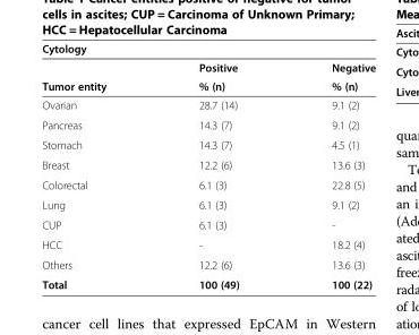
<table><thead><tr><td colspan="3">Cytology</td></tr><tr><td rowspan="2">Tumor entity</td><td rowspan="2">Positive % (n)</td><td rowspan="2">Negative % (n)</td></tr><tr></tr></thead><tbody><tr><td>Ovarian</td><td>28.7 (14)</td><td>9.1 (2)</td></tr><tr><td>Pancreas</td><td>14.3 (7)</td><td>9.1 (2)</td></tr><tr><td>Stomach</td><td>14.3 (7)</td><td>4.5 (1)</td></tr><tr><td>Breast</td><td>12.2 (6)</td><td>13.6 (3)</td></tr><tr><td>Colorectal</td><td>6.1 (3)</td><td>22.8 (5)</td></tr><tr><td>Lung</td><td>6.1 (3)</td><td>9.1 (2)</td></tr><tr><td>CUP</td><td>6.1 (3)</td><td>-</td></tr><tr><td>HCC</td><td>-</td><td>18.2 (4)</td></tr><tr><td>Others</td><td>12.2 (6)</td><td>13.6 (3)</td></tr><tr><td>Total</td><td>100 (49)</td><td>100 (22)</td></tr></tbody></table>